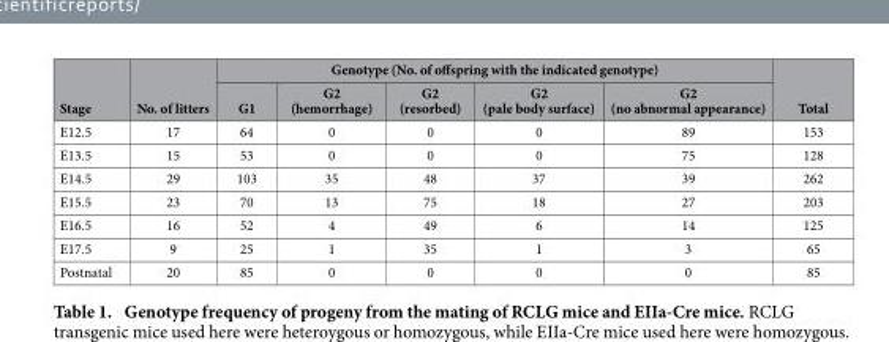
<table><thead><tr><td rowspan="2">Stage</td><td rowspan="2">No. of litters</td><td colspan="5">Genotype (No. of offspring with the indicated genotype)</td><td rowspan="2">Total</td></tr><tr><td>G1</td><td>G2 (hemorrhage)</td><td>G2 (resorbed)</td><td>G2 (pale body surface)</td><td>G2 (no abnormal appearance)</td></tr></thead><tbody><tr><td>E12.5</td><td>17</td><td>64</td><td>0</td><td>0</td><td>0</td><td>89</td><td>153</td></tr><tr><td>E13.5</td><td>15</td><td>53</td><td>0</td><td>0</td><td>0</td><td>75</td><td>128</td></tr><tr><td>E14.5</td><td>29</td><td>103</td><td>35</td><td>48</td><td>37</td><td>39</td><td>262</td></tr><tr><td>E15.5</td><td>23</td><td>70</td><td>13</td><td>75</td><td>18</td><td>27</td><td>203</td></tr><tr><td>E16.5</td><td>16</td><td>52</td><td>4</td><td>49</td><td>6</td><td>14</td><td>125</td></tr><tr><td>E17.5</td><td>9</td><td>25</td><td>1</td><td>35</td><td>1</td><td>3</td><td>65</td></tr><tr><td>Postnatal</td><td>20</td><td>85</td><td>0</td><td>0</td><td>0</td><td>0</td><td>85</td></tr></tbody></table>